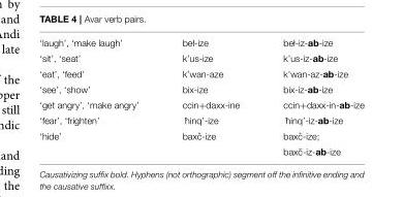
<table><tbody><tr><td>‘laugh’, ‘make laugh’</td><td>beł-ize</td><td>beł-iz-ab-ize</td></tr><tr><td>‘sit’, ‘seat’</td><td>k’us-ize</td><td>k’us-iz-ab-ize</td></tr><tr><td>‘eat’, ‘feed’</td><td>k’wan-aze</td><td>k’wan-az-ab-ize</td></tr><tr><td>‘see’, ‘show’</td><td>bix-ize</td><td>bix-iz-ab-ize</td></tr><tr><td>‘get angry’, ‘make angry’</td><td>ccin+daxx-ine</td><td>ccin+daxx-in-ab-ize</td></tr><tr><td>‘fear’, ‘frighten’</td><td>-hinq’-ize</td><td>-hinq’-iz-ab-ize</td></tr><tr><td rowspan="2">‘hide’</td><td>bax ˇc-ize</td><td>bax ˇc-ize;</td></tr><tr><td></td><td>bax ˇc-iz-ab-ize</td></tr></tbody></table>